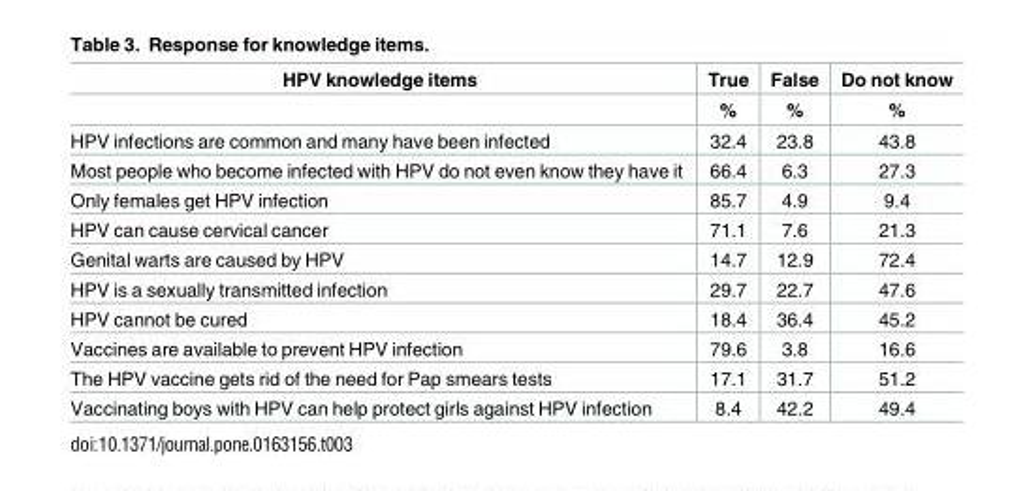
<table><thead><tr><td rowspan="2">HPV knowledge items</td><td rowspan="2">True %</td><td rowspan="2">False %</td><td rowspan="2">Do not know %</td></tr><tr></tr></thead><tbody><tr><td>HPV infections are common and many have been infected</td><td>32.4</td><td>23.8</td><td>43.8</td></tr><tr><td>Most people who become infected with HPV do not even know they have it</td><td>66.4</td><td>6.3</td><td>27.3</td></tr><tr><td>Only females get HPV infection</td><td>85.7</td><td>4.9</td><td>9.4</td></tr><tr><td>HPV can cause cervical cancer</td><td>71.1</td><td>7.6</td><td>21.3</td></tr><tr><td>Genital warts are caused by HPV</td><td>14.7</td><td>12.9</td><td>72.4</td></tr><tr><td>HPV is a sexually transmitted infection</td><td>29.7</td><td>22.7</td><td>47.6</td></tr><tr><td>HPV cannot be cured</td><td>18.4</td><td>36.4</td><td>45.2</td></tr><tr><td>Vaccines are available to prevent HPV infection</td><td>79.6</td><td>3.8</td><td>16.6</td></tr><tr><td>The HPV vaccine gets rid of the need for Pap smears tests</td><td>17.1</td><td>31.7</td><td>51.2</td></tr><tr><td>Vaccinating boys with HPV can help protect girls against HPV infection</td><td>8.4</td><td>42.2</td><td>49.4</td></tr></tbody></table>